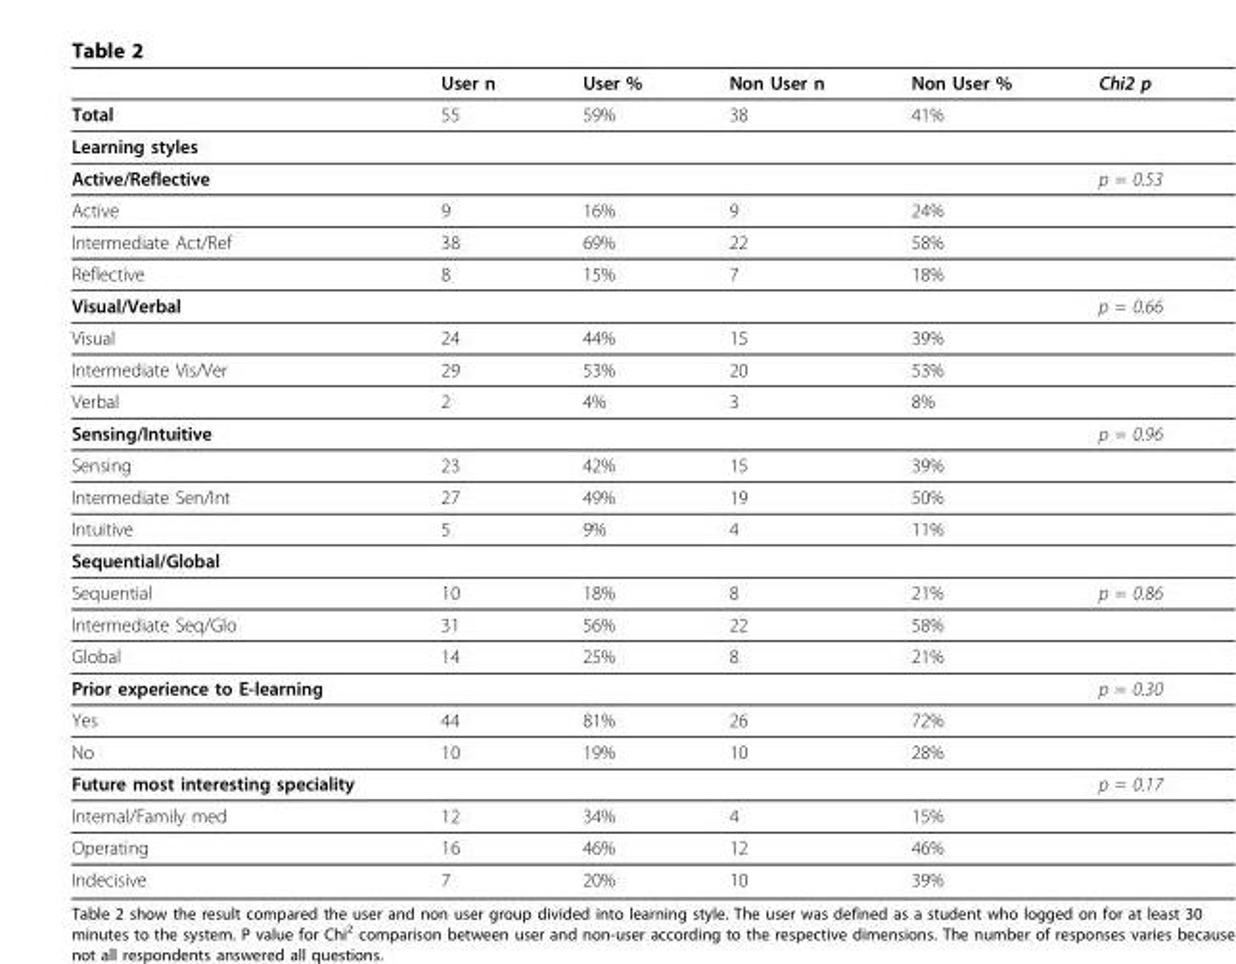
<table><thead><tr><td></td><td>User n</td><td>User %</td><td>Non User n</td><td>Non User %</td><td>Chi2 p</td></tr></thead><tbody><tr><td>Total</td><td>55</td><td>59%</td><td>38</td><td>41%</td><td></td></tr><tr><td colspan="6">Learning styles</td></tr><tr><td>Active/Reflective</td><td></td><td></td><td></td><td></td><td>p = 0.53</td></tr><tr><td>Active</td><td>9</td><td>16%</td><td>9</td><td>24%</td><td></td></tr><tr><td>Intermediate Act/Ref</td><td>38</td><td>69%</td><td>22</td><td>58%</td><td></td></tr><tr><td>Reflective</td><td>8</td><td>15%</td><td>7</td><td>18%</td><td></td></tr><tr><td>Visual/Verbal</td><td></td><td></td><td></td><td></td><td>p = 0.66</td></tr><tr><td>Visual</td><td>24</td><td>44%</td><td>15</td><td>39%</td><td></td></tr><tr><td>Intermediate Vis/Ver</td><td>29</td><td>53%</td><td>20</td><td>53%</td><td></td></tr><tr><td>Verbal</td><td>2</td><td>4%</td><td>3</td><td>8%</td><td></td></tr><tr><td>Sensing/Intuitive</td><td></td><td></td><td></td><td></td><td>p = 0.96</td></tr><tr><td>Sensing</td><td>23</td><td>42%</td><td>15</td><td>39%</td><td></td></tr><tr><td>Intermediate Sen/Int</td><td>27</td><td>49%</td><td>19</td><td>50%</td><td></td></tr><tr><td>Intuitive</td><td>5</td><td>9%</td><td>4</td><td>11%</td><td></td></tr><tr><td colspan="6">Sequential/Global</td></tr><tr><td>Sequential</td><td>10</td><td>18%</td><td>8</td><td>21%</td><td>p = 0.86</td></tr><tr><td>Intermediate Seq/Glo</td><td>31</td><td>56%</td><td>22</td><td>58%</td><td></td></tr><tr><td>Global</td><td>14</td><td>25%</td><td>8</td><td>21%</td><td></td></tr><tr><td>Prior experience to E-learning</td><td></td><td></td><td></td><td></td><td>p = 0.30</td></tr><tr><td>Yes</td><td>44</td><td>81%</td><td>26</td><td>72%</td><td></td></tr><tr><td>No</td><td>10</td><td>19%</td><td>10</td><td>28%</td><td></td></tr><tr><td>Future most interesting speciality</td><td></td><td></td><td></td><td></td><td>p = 0.17</td></tr><tr><td>Internal/Family med</td><td>12</td><td>34%</td><td>4</td><td>15%</td><td></td></tr><tr><td>Operating</td><td>16</td><td>46%</td><td>12</td><td>46%</td><td></td></tr><tr><td>Indecisive</td><td>7</td><td>20%</td><td>10</td><td>39%</td><td></td></tr></tbody></table>